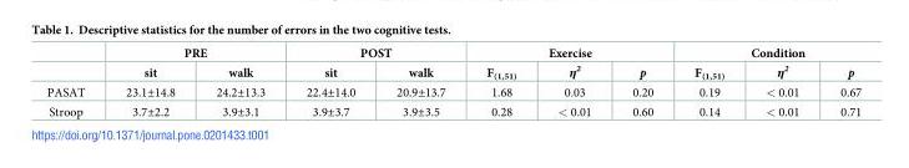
<table><thead><tr><td rowspan="2"></td><td colspan="2">PRE</td><td colspan="2">POST</td><td colspan="3">Exercise</td><td colspan="3">Condition</td></tr><tr><td>sit</td><td>walk</td><td>sit</td><td>walk</td><td>F<sub>(1,51)</sub></td><td>η<sup>2</sup></td><td>p</td><td>F<sub>(1,51)</sub></td><td>η<sup>2</sup></td><td>p</td></tr></thead><tbody><tr><td>PASAT</td><td>23.1±14.8</td><td>24.2±13.3</td><td>22.4±14.0</td><td>20.9±13.7</td><td>1.68</td><td>0.03</td><td>0.20</td><td>0.19</td><td>&lt; 0.01</td><td>0.67</td></tr><tr><td>Stroop</td><td>3.7±2.2</td><td>3.9±3.1</td><td>3.9±3.7</td><td>3.9±3.5</td><td>0.28</td><td>&lt; 0.01</td><td>0.60</td><td>0.14</td><td>&lt; 0.01</td><td>0.71</td></tr></tbody></table>